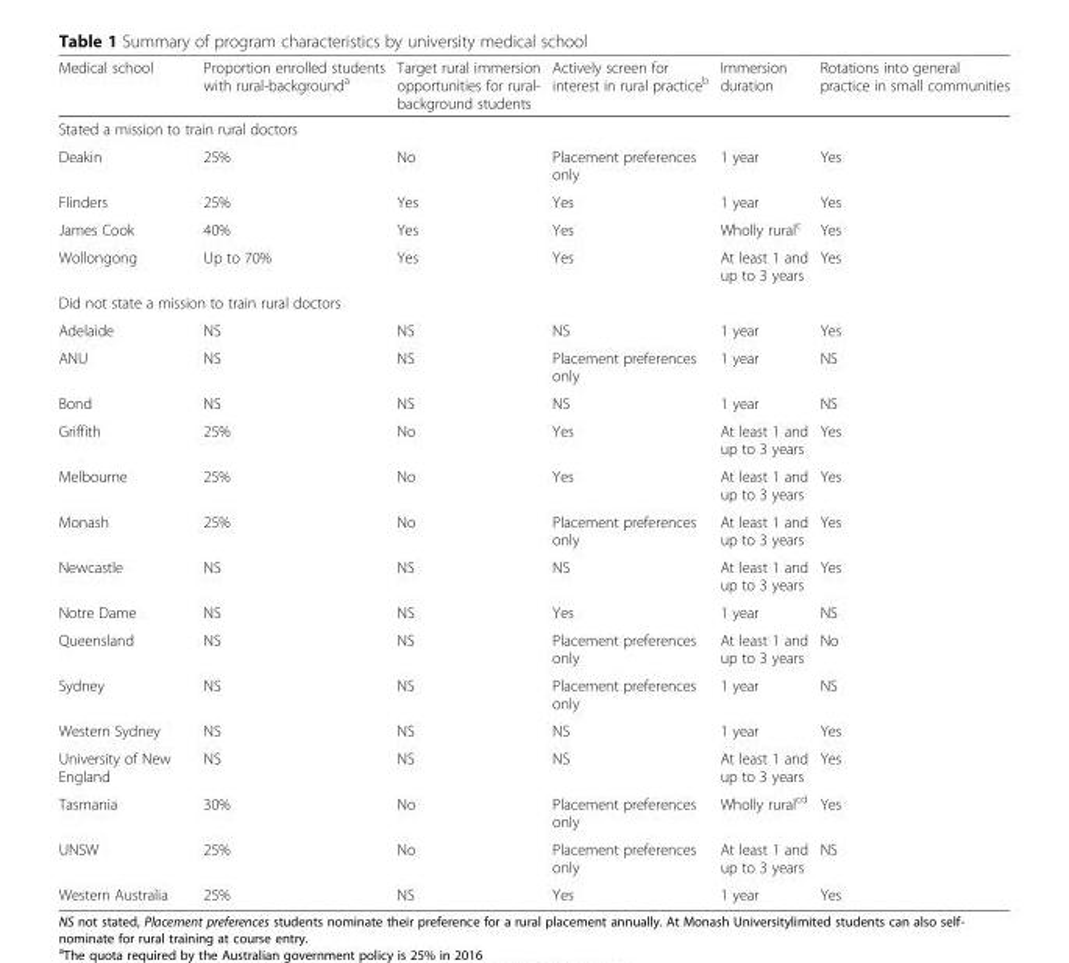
<table><thead><tr><td>Medical school</td><td>Proportion enrolled students with rural-background<sup>a</sup></td><td>Target rural immersion opportunities for rural- background students</td><td>Actively screen for interest in rural practice<sup>b</sup></td><td>Immersion duration</td><td>Rotations into general practice in small communities</td></tr></thead><tbody><tr><td colspan="6">Stated a mission to train rural doctors</td></tr><tr><td>Deakin</td><td>25%</td><td>No</td><td>Placement preferences only</td><td>1 year</td><td>Yes</td></tr><tr><td>Flinders</td><td>25%</td><td>Yes</td><td>Yes</td><td>1 year</td><td>Yes</td></tr><tr><td>James Cook</td><td>40%</td><td>Yes</td><td>Yes</td><td>Wholly rural<sup>c</sup></td><td>Yes</td></tr><tr><td>Wollongong</td><td>Up to 70%</td><td>Yes</td><td>Yes</td><td>At least 1 and up to 3 years</td><td>Yes</td></tr><tr><td colspan="6">Did not state a mission to train rural doctors</td></tr><tr><td>Adelaide</td><td>NS</td><td>NS</td><td>NS</td><td>1 year</td><td>Yes</td></tr><tr><td>ANU</td><td>NS</td><td>NS</td><td>Placement preferences only</td><td>1 year</td><td>NS</td></tr><tr><td>Bond</td><td>NS</td><td>NS</td><td>NS</td><td>1 year</td><td>NS</td></tr><tr><td>Griffith</td><td>25%</td><td>No</td><td>Yes</td><td>At least 1 and up to 3 years</td><td>Yes</td></tr><tr><td>Melbourne</td><td>25%</td><td>No</td><td>Yes</td><td>At least 1 and up to 3 years</td><td>Yes</td></tr><tr><td>Monash</td><td>25%</td><td>No</td><td>Placement preferences only</td><td>At least 1 and up to 3 years</td><td>Yes</td></tr><tr><td>Newcastle</td><td>NS</td><td>NS</td><td>NS</td><td>At least 1 and up to 3 years</td><td>Yes</td></tr><tr><td>Notre Dame</td><td>NS</td><td>NS</td><td>Yes</td><td>1 year</td><td>NS</td></tr><tr><td>Queensland</td><td>NS</td><td>NS</td><td>Placement preferences only</td><td>At least 1 and up to 3 years</td><td>No</td></tr><tr><td>Sydney</td><td>NS</td><td>NS</td><td>Placement preferences only</td><td>1 year</td><td>NS</td></tr><tr><td>Western Sydney</td><td>NS</td><td>NS</td><td>NS</td><td>1 year</td><td>Yes</td></tr><tr><td>University of New England</td><td>NS</td><td>NS</td><td>NS</td><td>At least 1 and up to 3 years</td><td>Yes</td></tr><tr><td>Tasmania</td><td>30%</td><td>No</td><td>Placement preferences only</td><td>Wholly rural<sup>cd</sup></td><td>Yes</td></tr><tr><td>UNSW</td><td>25%</td><td>No</td><td>Placement preferences only</td><td>At least 1 and up to 3 years</td><td>NS</td></tr><tr><td>Western Australia</td><td>25%</td><td>NS</td><td>Yes</td><td>1 year</td><td>Yes</td></tr></tbody></table>